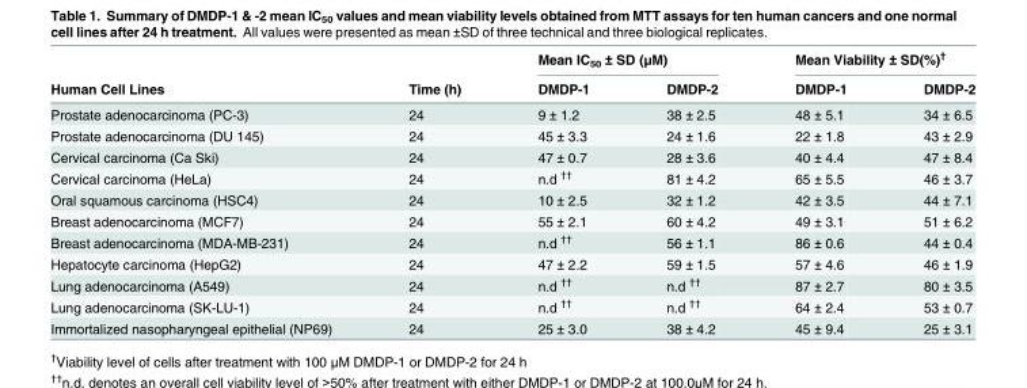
<table><thead><tr><td rowspan="2">Human Cell Lines</td><td rowspan="2">Time (h)</td><td colspan="2">Mean IC<sub>50</sub> ± SD (μM)</td><td colspan="2">Mean Viability ± SD(%)<sup>†</sup></td></tr><tr><td>DMDP-1</td><td>DMDP-2</td><td>DMDP-1</td><td>DMDP-2</td></tr></thead><tbody><tr><td>Prostate adenocarcinoma (PC-3)</td><td>24</td><td>9 ± 1.2</td><td>38 ± 2.5</td><td>48 ± 5.1</td><td>34 ± 6.5</td></tr><tr><td>Prostate adenocarcinoma (DU 145)</td><td>24</td><td>45 ± 3.3</td><td>24 ± 1.6</td><td>22 ± 1.8</td><td>43 ± 2.9</td></tr><tr><td>Cervical carcinoma (Ca Ski)</td><td>24</td><td>47 ± 0.7</td><td>28 ± 3.6</td><td>40 ± 4.4</td><td>47 ± 8.4</td></tr><tr><td>Cervical carcinoma (HeLa)</td><td>24</td><td>n.d <sup>††</sup></td><td>81 ± 4.2</td><td>65 ± 5.5</td><td>46 ± 3.7</td></tr><tr><td>Oral squamous carcinoma (HSC4)</td><td>24</td><td>10 ± 2.5</td><td>32 ± 1.2</td><td>42 ± 3.5</td><td>44 ± 7.1</td></tr><tr><td>Breast adenocarcinoma (MCF7)</td><td>24</td><td>55 ± 2.1</td><td>60 ± 4.2</td><td>49 ± 3.1</td><td>51 ± 6.2</td></tr><tr><td>Breast adenocarcinoma (MDA-MB-231)</td><td>24</td><td>n.d <sup>††</sup></td><td>56 ± 1.1</td><td>86 ± 0.6</td><td>44 ± 0.4</td></tr><tr><td>Hepatocyte carcinoma (HepG2)</td><td>24</td><td>47 ± 2.2</td><td>59 ± 1.5</td><td>57 ± 4.6</td><td>46 ± 1.9</td></tr><tr><td>Lung adenocarcinoma (A549)</td><td>24</td><td>n.d <sup>††</sup></td><td>n.d <sup>††</sup></td><td>87 ± 2.7</td><td>80 ± 3.5</td></tr><tr><td>Lung adenocarcinoma (SK-LU-1)</td><td>24</td><td>n.d <sup>††</sup></td><td>n.d <sup>††</sup></td><td>64 ± 2.4</td><td>53 ± 0.7</td></tr><tr><td>Immortalized nasopharyngeal epithelial (NP69)</td><td>24</td><td>25 ± 3.0</td><td>38 ± 4.2</td><td>45 ± 9.4</td><td>25 ± 3.1</td></tr></tbody></table>